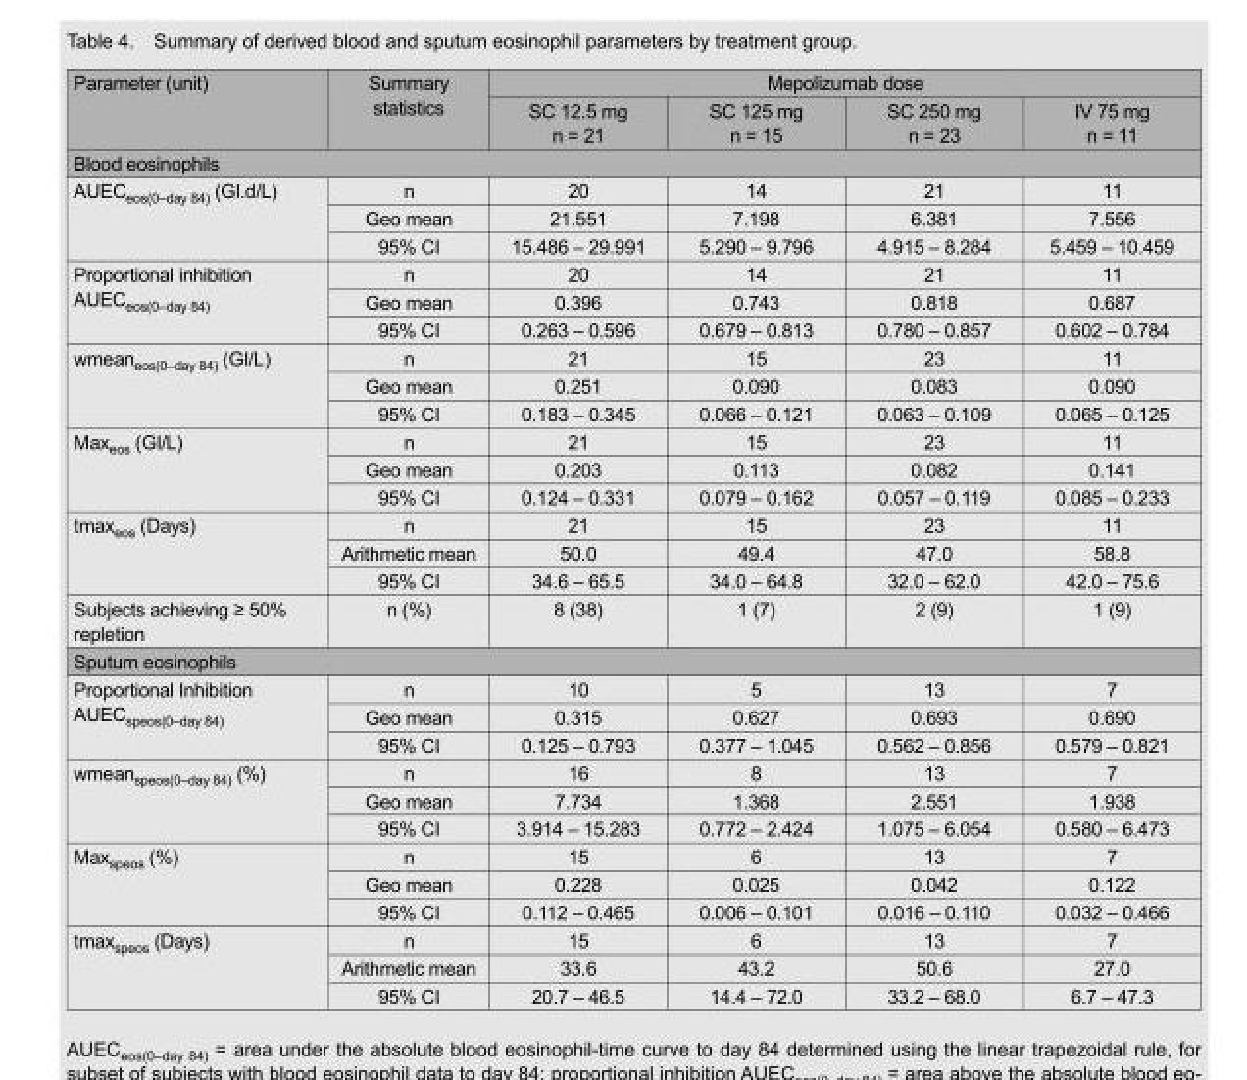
<table><thead><tr><td rowspan="2">Parameter (unit)</td><td rowspan="2">Summary statistics</td><td colspan="4">Mepolizumab dose</td></tr><tr><td>SC 12.5 mg n = 21</td><td>SC 125 mg n = 15</td><td>SC 250 mg n = 23</td><td>IV 75 mg n = 11</td></tr></thead><tbody><tr><td colspan="6">Blood eosinophils</td></tr><tr><td rowspan="3">AUEC<sub>eos(0–day 84)</sub> (GI.d/L)</td><td>n</td><td>20</td><td>14</td><td>21</td><td>11</td></tr><tr><td>Geo mean</td><td>21.551</td><td>7.198</td><td>6.381</td><td>7.556</td></tr><tr><td>95% CI</td><td>15.486 – 29.991</td><td>5.290 – 9.796</td><td>4.915 – 8.284</td><td>5.459 – 10.459</td></tr><tr><td rowspan="3">Proportional inhibition AUEC<sub>eos(0–day 84)</sub></td><td>n</td><td>20</td><td>14</td><td>21</td><td>11</td></tr><tr><td>Geo mean</td><td>0.396</td><td>0.743</td><td>0.818</td><td>0.687</td></tr><tr><td>95% CI</td><td>0.263 – 0.596</td><td>0.679 – 0.813</td><td>0.780 – 0.857</td><td>0.602 – 0.784</td></tr><tr><td rowspan="3">wmean<sub>eos(0–day 84)</sub> (GI/L)</td><td>n</td><td>21</td><td>15</td><td>23</td><td>11</td></tr><tr><td>Geo mean</td><td>0.251</td><td>0.090</td><td>0.083</td><td>0.090</td></tr><tr><td>95% CI</td><td>0.183 – 0.345</td><td>0.066 – 0.121</td><td>0.063 – 0.109</td><td>0.065 – 0.125</td></tr><tr><td rowspan="3">Max<sub>eos</sub> (GI/L)</td><td>n</td><td>21</td><td>15</td><td>23</td><td>11</td></tr><tr><td>Geo mean</td><td>0.203</td><td>0.113</td><td>0.082</td><td>0.141</td></tr><tr><td>95% CI</td><td>0.124 – 0.331</td><td>0.079 – 0.162</td><td>0.057 – 0.119</td><td>0.085 – 0.233</td></tr><tr><td rowspan="3">tmax<sub>eos</sub> (Days)</td><td>n</td><td>21</td><td>15</td><td>23</td><td>11</td></tr><tr><td>Arithmetic mean</td><td>50.0</td><td>49.4</td><td>47.0</td><td>58.8</td></tr><tr><td>95% CI</td><td>34.6 – 65.5</td><td>34.0 – 64.8</td><td>32.0 – 62.0</td><td>42.0 – 75.6</td></tr><tr><td>Subjects achieving ≥ 50% repletion</td><td>n (%)</td><td>8 (38)</td><td>1 (7)</td><td>2 (9)</td><td>1 (9)</td></tr><tr><td colspan="6">Sputum eosinophils</td></tr><tr><td rowspan="3">Proportional Inhibition AUEC<sub>speos(0–day 84)</sub></td><td>n</td><td>10</td><td>5</td><td>13</td><td>7</td></tr><tr><td>Geo mean</td><td>0.315</td><td>0.627</td><td>0.693</td><td>0.690</td></tr><tr><td>95% CI</td><td>0.125 – 0.793</td><td>0.377 – 1.045</td><td>0.562 – 0.856</td><td>0.579 – 0.821</td></tr><tr><td rowspan="3">wmean<sub>speos(0–day 84)</sub> (%)</td><td>n</td><td>16</td><td>8</td><td>13</td><td>7</td></tr><tr><td>Geo mean</td><td>7.734</td><td>1.368</td><td>2.551</td><td>1.938</td></tr><tr><td>95% CI</td><td>3.914 – 15.283</td><td>0.772 – 2.424</td><td>1.075 – 6.054</td><td>0.580 – 6.473</td></tr><tr><td rowspan="3">Max<sub>speos</sub> (%)</td><td>n</td><td>15</td><td>6</td><td>13</td><td>7</td></tr><tr><td>Geo mean</td><td>0.228</td><td>0.025</td><td>0.042</td><td>0.122</td></tr><tr><td>95% CI</td><td>0.112 – 0.465</td><td>0.006 – 0.101</td><td>0.016 – 0.110</td><td>0.032 – 0.466</td></tr><tr><td rowspan="3">tmax<sub>speos</sub> (Days)</td><td>n</td><td>15</td><td>6</td><td>13</td><td>7</td></tr><tr><td>Arithmetic mean</td><td>33.6</td><td>43.2</td><td>50.6</td><td>27.0</td></tr><tr><td>95% CI</td><td>20.7 – 46.5</td><td>14.4 – 72.0</td><td>33.2 – 68.0</td><td>6.7 – 47.3</td></tr></tbody></table>